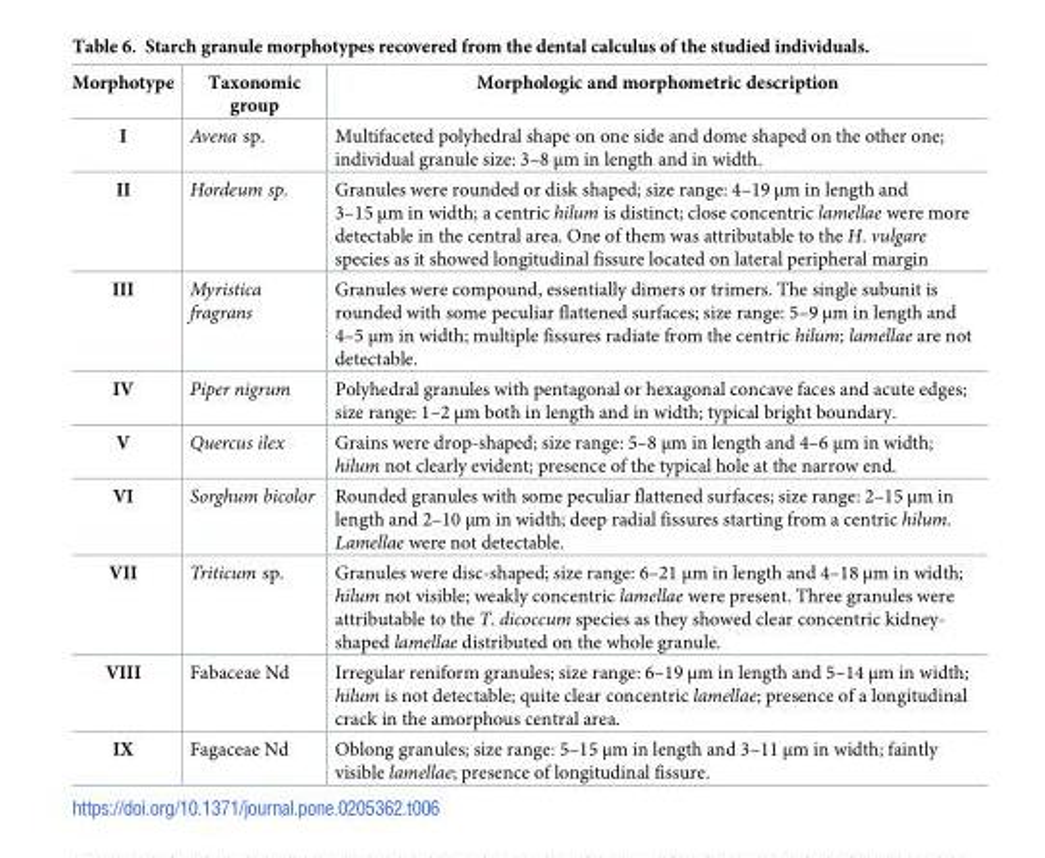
<table><thead><tr><td>Morphotype</td><td>Taxonomic group</td><td>Morphologic and morphometric description</td></tr></thead><tbody><tr><td>I</td><td>Avena sp.</td><td>Multifaceted polyhedral shape on one side and dome shaped on the other one; individual granule size: 3–8 μm in length and in width.</td></tr><tr><td>II</td><td>Hordeum sp.</td><td>Granules were rounded or disk shaped; size range: 4–19 μm in length and 3–15 μm in width; a centric hilum is distinct; close concentric lamellae were more detectable in the central area. One of them was attributable to the H. vulgare species as it showed longitudinal fissure located on lateral peripheral margin</td></tr><tr><td>III</td><td>Myristica fragrans</td><td>Granules were compound, essentially dimers or trimers. The single subunit is rounded with some peculiar flattened surfaces; size range: 5–9 μm in length and 4–5 μm in width; multiple fissures radiate from the centric hilum; lamellae are not detectable.</td></tr><tr><td>IV</td><td>Piper nigrum</td><td>Polyhedral granules with pentagonal or hexagonal concave faces and acute edges; size range: 1–2 μm both in length and in width; typical bright boundary.</td></tr><tr><td>V</td><td>Quercus ilex</td><td>Grains were drop-shaped; size range: 5–8 μm in length and 4–6 μm in width; hilum not clearly evident; presence of the typical hole at the narrow end.</td></tr><tr><td>VI</td><td>Sorghum bicolor</td><td>Rounded granules with some peculiar flattened surfaces; size range: 2–15 μm in length and 2–10 μm in width; deep radial fissures starting from a centric hilum. Lamellae were not detectable.</td></tr><tr><td>VII</td><td>Triticum sp.</td><td>Granules were disc-shaped; size range: 6–21 μm in length and 4–18 μm in width; hilum not visible; weakly concentric lamellae were present. Three granules were attributable to the T. dicoccum species as they showed clear concentric kidney- shaped lamellae distributed on the whole granule.</td></tr><tr><td>VIII</td><td>Fabaceae Nd</td><td>Irregular reniform granules; size range: 6–19 μm in length and 5–14 μm in width; hilum is not detectable; quite clear concentric lamellae; presence of a longitudinal crack in the amorphous central area.</td></tr><tr><td>IX</td><td>Fagaceae Nd</td><td>Oblong granules; size range: 5–15 μm in length and 3–11 μm in width; faintly visible lamellae; presence of longitudinal fissure.</td></tr></tbody></table>